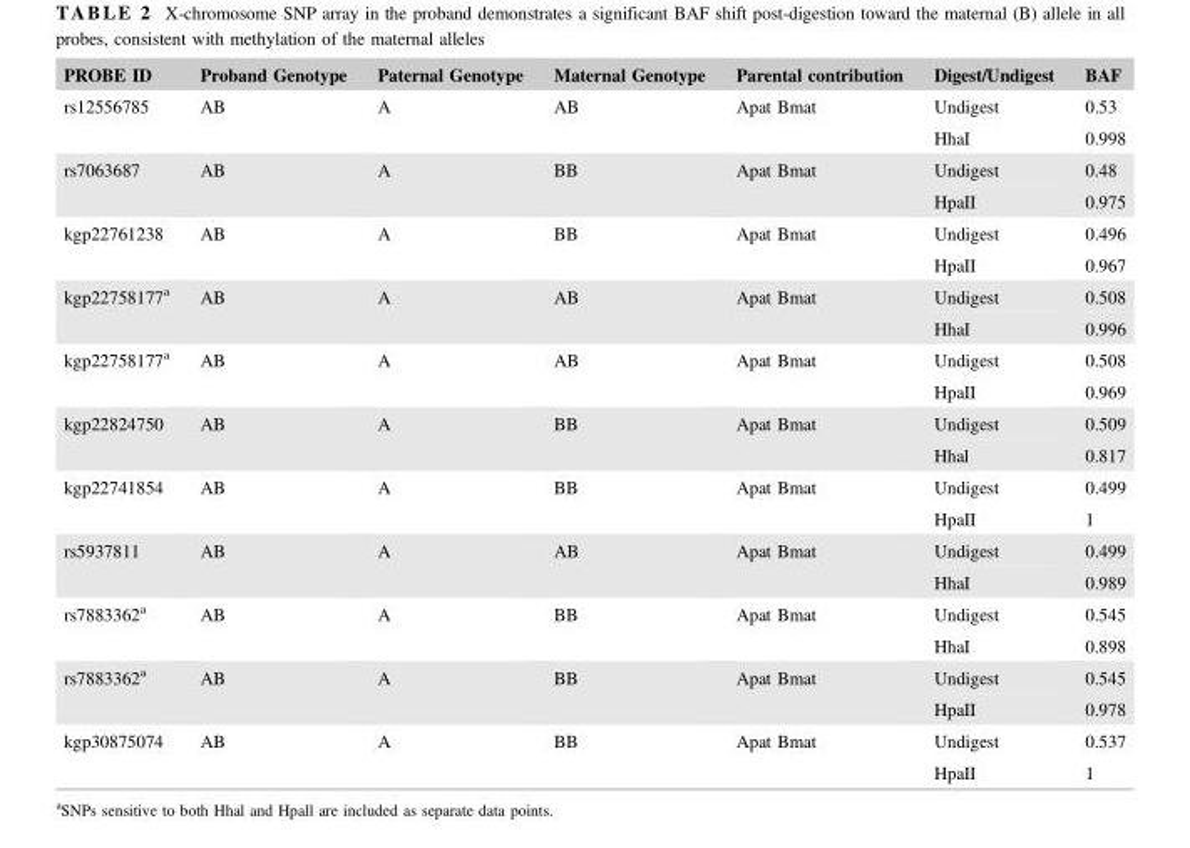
<table><thead><tr><td>PROBE ID</td><td>Proband Genotype</td><td>Paternal Genotype</td><td>Maternal Genotype</td><td>Parental contribution</td><td>Digest/Undigest</td><td>BAF</td></tr></thead><tbody><tr><td rowspan="2">rs12556785</td><td rowspan="2">AB</td><td rowspan="2">A</td><td rowspan="2">AB</td><td rowspan="2">Apat Bmat</td><td>Undigest</td><td>0.53</td></tr><tr><td>HhaI</td><td>0.998</td></tr><tr><td rowspan="2">rs7063687</td><td rowspan="2">AB</td><td rowspan="2">A</td><td rowspan="2">BB</td><td rowspan="2">Apat Bmat</td><td>Undigest</td><td>0.48</td></tr><tr><td>HpaII</td><td>0.975</td></tr><tr><td rowspan="2">kgp22761238</td><td rowspan="2">AB</td><td rowspan="2">A</td><td rowspan="2">BB</td><td rowspan="2">Apat Bmat</td><td>Undigest</td><td>0.496</td></tr><tr><td>HpaII</td><td>0.967</td></tr><tr><td rowspan="2">kgp22758177<sup>a</sup></td><td rowspan="2">AB</td><td rowspan="2">A</td><td rowspan="2">AB</td><td rowspan="2">Apat Bmat</td><td>Undigest</td><td>0.508</td></tr><tr><td>HhaI</td><td>0.996</td></tr><tr><td rowspan="2">kgp22758177<sup>a</sup></td><td rowspan="2">AB</td><td rowspan="2">A</td><td rowspan="2">AB</td><td rowspan="2">Apat Bmat</td><td>Undigest</td><td>0.508</td></tr><tr><td>HpaII</td><td>0.969</td></tr><tr><td rowspan="2">kgp22824750</td><td rowspan="2">AB</td><td rowspan="2">A</td><td rowspan="2">BB</td><td rowspan="2">Apat Bmat</td><td>Undigest</td><td>0.509</td></tr><tr><td>Hhal</td><td>0.817</td></tr><tr><td rowspan="2">kgp22741854</td><td rowspan="2">AB</td><td rowspan="2">A</td><td rowspan="2">BB</td><td rowspan="2">Apat Bmat</td><td>Undigest</td><td>0.499</td></tr><tr><td>HpaII</td><td>1</td></tr><tr><td rowspan="2">rs5937811</td><td rowspan="2">AB</td><td rowspan="2">A</td><td rowspan="2">AB</td><td rowspan="2">Apat Bmat</td><td>Undigest</td><td>0.499</td></tr><tr><td>HhaI</td><td>0.989</td></tr><tr><td rowspan="2">rs7883362<sup>a</sup></td><td rowspan="2">AB</td><td rowspan="2">A</td><td rowspan="2">BB</td><td rowspan="2">Apat Bmat</td><td>Undigest</td><td>0.545</td></tr><tr><td>HhaI</td><td>0.898</td></tr><tr><td rowspan="2">rs7883362<sup>a</sup></td><td rowspan="2">AB</td><td rowspan="2">A</td><td rowspan="2">BB</td><td rowspan="2">Apat Bmat</td><td>Undigest</td><td>0.545</td></tr><tr><td>HpaII</td><td>0.978</td></tr><tr><td rowspan="2">kgp30875074</td><td rowspan="2">AB</td><td rowspan="2">A</td><td rowspan="2">BB</td><td rowspan="2">Apat Bmat</td><td>Undigest</td><td>0.537</td></tr><tr><td>HpaII</td><td>1</td></tr></tbody></table>